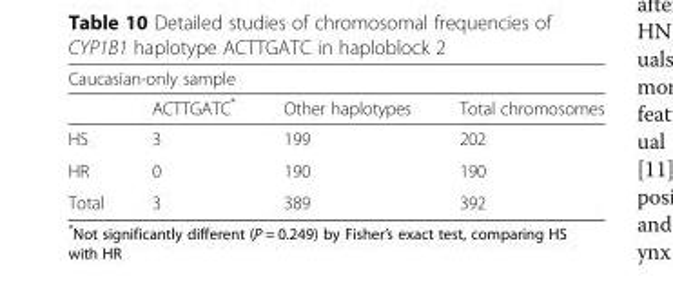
<table><thead><tr><td colspan="4">Caucasian-only sample</td></tr><tr><td></td><td>ACTTGATC*</td><td>Other haplotypes</td><td>Total chromosomes</td></tr></thead><tbody><tr><td>HS</td><td>3</td><td>199</td><td>202</td></tr><tr><td>HR</td><td>0</td><td>190</td><td>190</td></tr><tr><td>Total</td><td>3</td><td>389</td><td>392</td></tr></tbody></table>